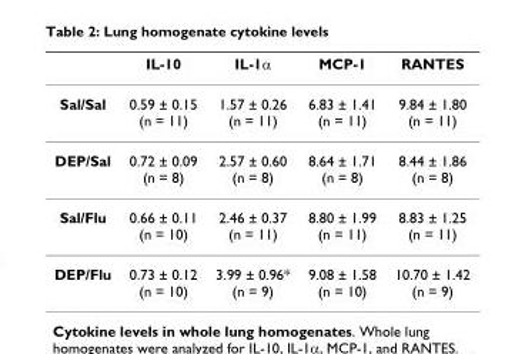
<table><thead><tr><td></td><td>IL-10</td><td>IL-1α</td><td>MCP-1</td><td>RANTES</td></tr></thead><tbody><tr><td>Sal/Sal</td><td>0.59 ± 0.15 (n = 11)</td><td>1.57 ± 0.26 (n = 11)</td><td>6.83 ± 1.41 (n = 11)</td><td>9.84 ± 1.80 (n = 11)</td></tr><tr><td>DEP/Sal</td><td>0.72 ± 0.09 (n = 8)</td><td>2.57 ± 0.60 (n = 8)</td><td>8.64 ± 1.71 (n = 8)</td><td>8.44 ± 1.86 (n = 8)</td></tr><tr><td>Sal/Flu</td><td>0.66 ± 0.11 (n = 10)</td><td>2.46 ± 0.37 (n = 11)</td><td>8.80 ± 1.99 (n = 11)</td><td>8.83 ± 1.25 (n = 11)</td></tr><tr><td>DEP/Flu</td><td>0.73 ± 0.12 (n = 10)</td><td>3.99 ± 0.96* (n = 9)</td><td>9.08 ± 1.58 (n = 10)</td><td>10.70 ± 1.42 (n = 9)</td></tr></tbody></table>